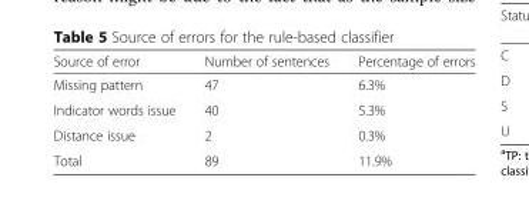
<table><thead><tr><td>Source of error</td><td>Number of sentences</td><td>Percentage of errors</td></tr></thead><tbody><tr><td>Missing pattern</td><td>47</td><td>6.3%</td></tr><tr><td>Indicator words issue</td><td>40</td><td>5.3%</td></tr><tr><td>Distance issue</td><td>2</td><td>0.3%</td></tr><tr><td>Total</td><td>89</td><td>11.9%</td></tr></tbody></table>